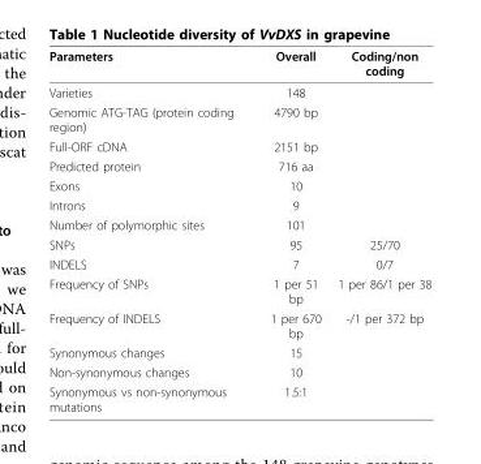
<table><thead><tr><td>Parameters</td><td>Overall</td><td>Coding/non coding</td></tr></thead><tbody><tr><td>Varieties</td><td>148</td><td></td></tr><tr><td>Genomic ATG-TAG (protein coding region)</td><td>4790 bp</td><td></td></tr><tr><td>Full-ORF cDNA</td><td>2151 bp</td><td></td></tr><tr><td>Predicted protein</td><td>716 aa</td><td></td></tr><tr><td>Exons</td><td>10</td><td></td></tr><tr><td>Introns</td><td>9</td><td></td></tr><tr><td>Number of polymorphic sites</td><td>101</td><td></td></tr><tr><td>SNPs</td><td>95</td><td>25/70</td></tr><tr><td>INDELS</td><td>7</td><td>0/7</td></tr><tr><td>Frequency of SNPs</td><td>1 per 51 bp</td><td>1 per 86/1 per 38</td></tr><tr><td>Frequency of INDELS</td><td>1 per 670 bp</td><td>-/1 per 372 bp</td></tr><tr><td>Synonymous changes</td><td>15</td><td></td></tr><tr><td>Non-synonymous changes</td><td>10</td><td></td></tr><tr><td>Synonymous vs non-synonymous mutations</td><td>1.5:1</td><td></td></tr></tbody></table>